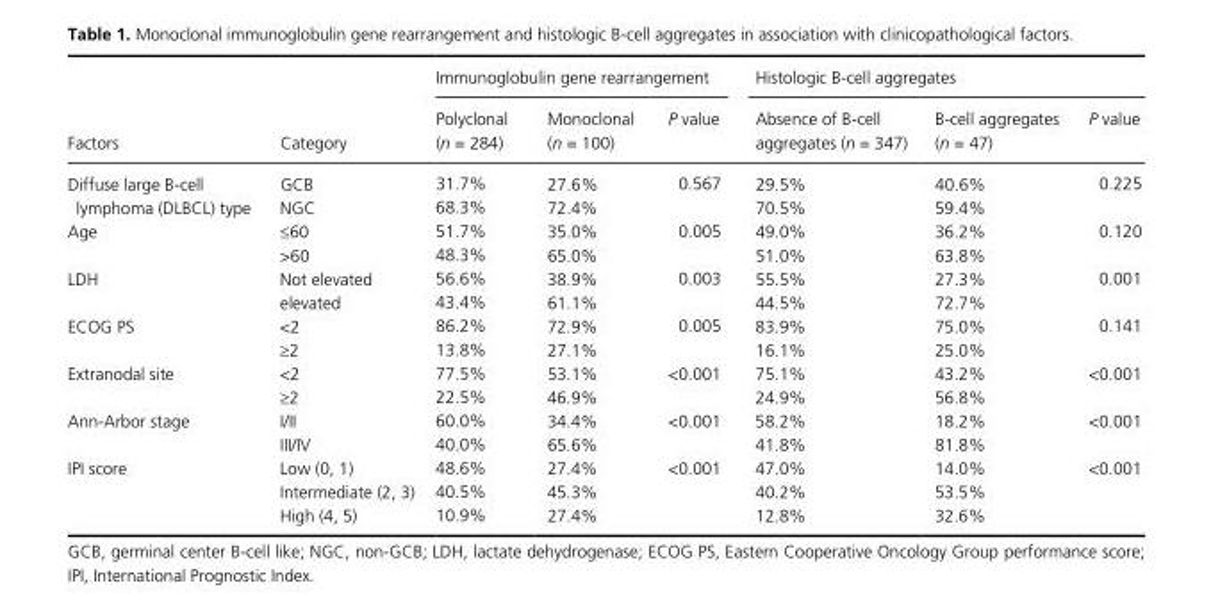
<table><thead><tr><td rowspan="2">Factors</td><td rowspan="2">Category</td><td colspan="3">Immunoglobulin gene rearrangement</td><td colspan="3">Histologic B- cell aggregates</td></tr><tr><td>Polyclonal (n = 284)</td><td>Monoclonal (n = 100)</td><td>P value</td><td>Absence of B- cell aggregates (n = 347)</td><td>B- cell aggregates (n = 47)</td><td>P value</td></tr></thead><tbody><tr><td rowspan="2">Diffuse large B- cell lymphoma (DLBCL) type</td><td>GCB</td><td>31.7%</td><td>27.6%</td><td>0.567</td><td>29.5%</td><td>40.6%</td><td>0.225</td></tr><tr><td>NGC</td><td>68.3%</td><td>72.4%</td><td></td><td>70.5%</td><td>59.4%</td><td></td></tr><tr><td rowspan="2">Age</td><td>≤60</td><td>51.7%</td><td>35.0%</td><td>0.005</td><td>49.0%</td><td>36.2%</td><td>0.120</td></tr><tr><td>&gt;60</td><td>48.3%</td><td>65.0%</td><td></td><td>51.0%</td><td>63.8%</td><td></td></tr><tr><td rowspan="2">LDH</td><td>Not elevated</td><td>56.6%</td><td>38.9%</td><td>0.003</td><td>55.5%</td><td>27.3%</td><td>0.001</td></tr><tr><td>elevated</td><td>43.4%</td><td>61.1%</td><td></td><td>44.5%</td><td>72.7%</td><td></td></tr><tr><td rowspan="2">ECOG PS</td><td>&lt;2</td><td>86.2%</td><td>72.9%</td><td>0.005</td><td>83.9%</td><td>75.0%</td><td>0.141</td></tr><tr><td>≥2</td><td>13.8%</td><td>27.1%</td><td></td><td>16.1%</td><td>25.0%</td><td></td></tr><tr><td rowspan="2">Extranodal site</td><td>&lt;2</td><td>77.5%</td><td>53.1%</td><td>&lt;0.001</td><td>75.1%</td><td>43.2%</td><td>&lt;0.001</td></tr><tr><td>≥2</td><td>22.5%</td><td>46.9%</td><td></td><td>24.9%</td><td>56.8%</td><td></td></tr><tr><td rowspan="2">Ann- Arbor stage</td><td>I/II</td><td>60.0%</td><td>34.4%</td><td>&lt;0.001</td><td>58.2%</td><td>18.2%</td><td>&lt;0.001</td></tr><tr><td>III/IV</td><td>40.0%</td><td>65.6%</td><td></td><td>41.8%</td><td>81.8%</td><td></td></tr><tr><td rowspan="3">IPI score</td><td>Low (0, 1)</td><td>48.6%</td><td>27.4%</td><td>&lt;0.001</td><td>47.0%</td><td>14.0%</td><td>&lt;0.001</td></tr><tr><td>Intermediate (2, 3)</td><td>40.5%</td><td>45.3%</td><td></td><td>40.2%</td><td>53.5%</td><td></td></tr><tr><td>High (4, 5)</td><td>10.9%</td><td>27.4%</td><td></td><td>12.8%</td><td>32.6%</td><td></td></tr></tbody></table>